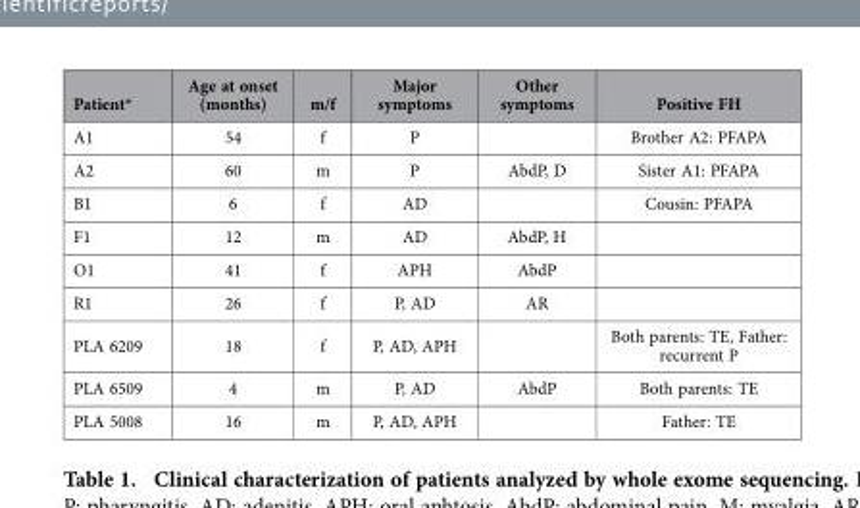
<table><thead><tr><td>Patient*</td><td>Age at onset (months)</td><td>m/f</td><td>Major symptoms</td><td>Other symptoms</td><td>Positive FH</td></tr></thead><tbody><tr><td>A1</td><td>54</td><td>f</td><td>P</td><td></td><td>Brother A2: PFAPA</td></tr><tr><td>A2</td><td>60</td><td>m</td><td>P</td><td>AbdP, D</td><td>Sister A1: PFAPA</td></tr><tr><td>B1</td><td>6</td><td>f</td><td>AD</td><td></td><td>Cousin: PFAPA</td></tr><tr><td>F1</td><td>12</td><td>m</td><td>AD</td><td>AbdP, H</td><td></td></tr><tr><td>O1</td><td>41</td><td>f</td><td>APH</td><td>AbdP</td><td></td></tr><tr><td>R1</td><td>26</td><td>f</td><td>P, AD</td><td>AR</td><td></td></tr><tr><td>PLA 6209</td><td>18</td><td>f</td><td>P, AD, APH</td><td></td><td>Both parents: TE, Father: recurrent P</td></tr><tr><td>PLA 6509</td><td>4</td><td>m</td><td>P, AD</td><td>AbdP</td><td>Both parents: TE</td></tr><tr><td>PLA 5008</td><td>16</td><td>m</td><td>P, AD, APH</td><td></td><td>Father: TE</td></tr></tbody></table>